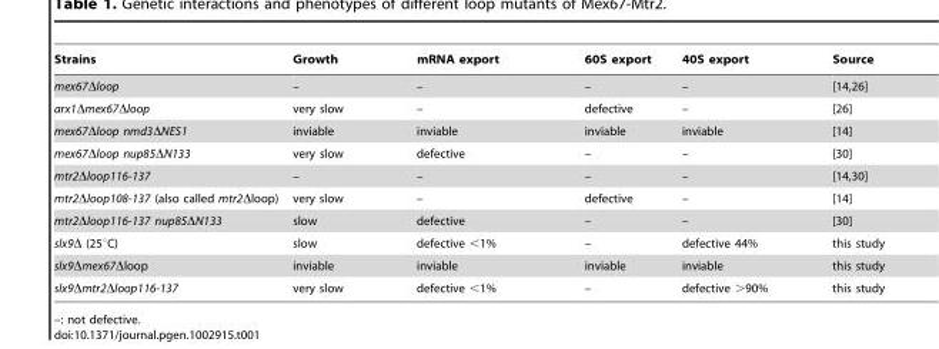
<table><thead><tr><td>Strains</td><td>Growth</td><td>mRNA export</td><td>60S export</td><td>40S export</td><td>Source</td></tr></thead><tbody><tr><td>mex67Δloop</td><td>–</td><td>–</td><td>–</td><td>–</td><td>[14,26]</td></tr><tr><td>arx1Δmex67Δloop</td><td>very slow</td><td>–</td><td>defective</td><td>–</td><td>[26]</td></tr><tr><td>mex67Δloop nmd3ΔNES1</td><td>inviable</td><td>inviable</td><td>inviable</td><td>inviable</td><td>[14]</td></tr><tr><td>mex67Δloop nup85ΔN133</td><td>very slow</td><td>defective</td><td>–</td><td>–</td><td>[30]</td></tr><tr><td>mtr2Δloop116-137</td><td>–</td><td>–</td><td>–</td><td>–</td><td>[14,30]</td></tr><tr><td>mtr2Δloop108-137 (also called mtr2Δloop)</td><td>very slow</td><td>–</td><td>defective</td><td>–</td><td>[14]</td></tr><tr><td>mtr2Δloop116-137 nup85ΔN133</td><td>slow</td><td>defective</td><td>–</td><td>–</td><td>[30]</td></tr><tr><td>slx9Δ (25°C)</td><td>slow</td><td>defective &lt;1%</td><td>–</td><td>defective 44%</td><td>this study</td></tr><tr><td>slx9Δmex67Δloop</td><td>inviable</td><td>inviable</td><td>inviable</td><td>inviable</td><td>this study</td></tr><tr><td>slx9Δmtr2Δloop116-137</td><td>very slow</td><td>defective &lt;1%</td><td>–</td><td>defective &gt;90%</td><td>this study</td></tr></tbody></table>